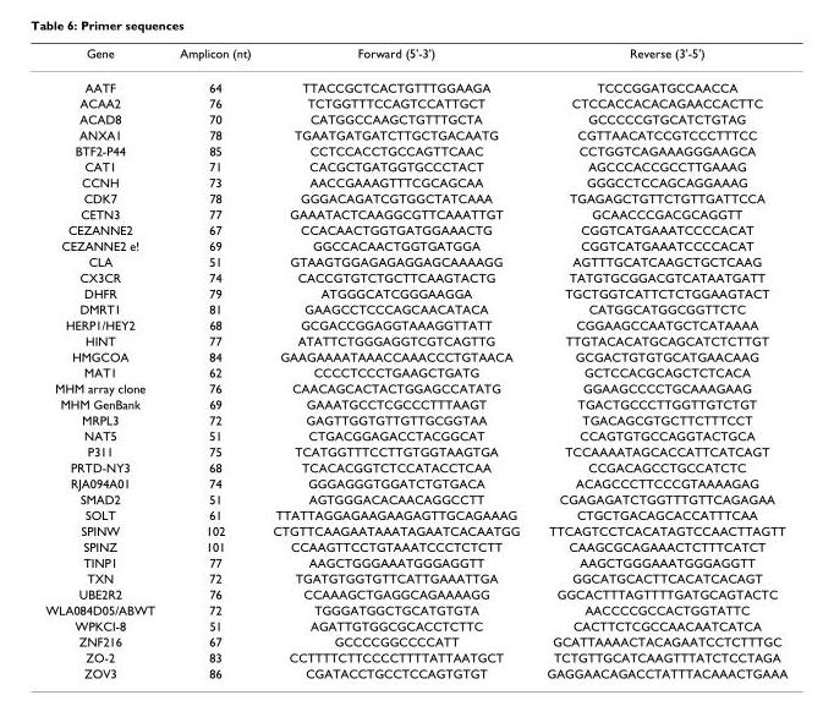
<table><thead><tr><td>Gene</td><td>Amplicon (nt)</td><td>Forward (5&#x27;-3&#x27;)</td><td>Reverse (3&#x27;-5&#x27;)</td></tr></thead><tbody><tr><td>AATF</td><td>64</td><td>TTACCGCTCACTGTTTGGAAGA</td><td>TCCCGGATGCCAACCA</td></tr><tr><td>ACAA2</td><td>76</td><td>TCTGGTTTCCAGTCCATTGCT</td><td>CTCCACCACACAGAACCACTTC</td></tr><tr><td>ACAD8</td><td>70</td><td>CATGGCCAAGCTGTTTGCTA</td><td>GCCCCCGTGCATCTGTAG</td></tr><tr><td>ANXA1</td><td>78</td><td>TGAATGATGATCTTGCTGACAATG</td><td>CGTTAACATCCGTCCCTTTCC</td></tr><tr><td>BTF2-P44</td><td>85</td><td>CCTCCACCTGCCAGTTCAAC</td><td>CCTGGTCAGAAAGGGAAGCA</td></tr><tr><td>CAT1</td><td>71</td><td>CACGCTGATGGTGCCCTACT</td><td>AGCCCACCGCCTTGAAAG</td></tr><tr><td>CCNH</td><td>73</td><td>AACCGAAAGTTTCGCAGCAA</td><td>GGGCCTCCAGCAGGAAAG</td></tr><tr><td>CDK7</td><td>78</td><td>GGGACAGATCGTGGCTATCAAA</td><td>TGAGAGCTGTTCTGTTGATTCCA</td></tr><tr><td>CETN3</td><td>77</td><td>GAAATACTCAAGGCGTTCAAATTGT</td><td>GCAACCCGACGCAGGTT</td></tr><tr><td>CEZANNE2</td><td>67</td><td>CCACAACTGGTGATGGAAACTG</td><td>CGGTCATGAAATCCCCACAT</td></tr><tr><td>CEZANNE2 e!</td><td>69</td><td>GGCCACAACTGGTGATGGA</td><td>CGGTCATGAAATCCCCACAT</td></tr><tr><td>CLA</td><td>51</td><td>GTAAGTGGAGAGAGGAGCAAAAGG</td><td>AGTTTGCATCAAGCTGCTCAAG</td></tr><tr><td>CX3CR</td><td>74</td><td>CACCGTGTCTGCTTCAAGTACTG</td><td>TATGTGCGGACGTCATAATGATT</td></tr><tr><td>DHFR</td><td>79</td><td>ATGGGCATCGGGAAGGA</td><td>TGCTGGTCATTCTCTGGAAGTACT</td></tr><tr><td>DMRT1</td><td>81</td><td>GAAGCCTCCCAGCAACATACA</td><td>CATGGCATGGCGGTTCTC</td></tr><tr><td>HERP1/HEY2</td><td>68</td><td>GCGACCGGAGGTAAAGGTTATT</td><td>CGGAAGCCAATGCTCATAAAA</td></tr><tr><td>HINT</td><td>77</td><td>ATATTCTGGGAGGTCGTCAGTTG</td><td>TTGTACACATGCAGCATCTCTTGT</td></tr><tr><td>HMGCOA</td><td>84</td><td>GAAGAAAATAAACCAAACCCTGTAACA</td><td>GCGACTGTGTGCATGAACAAG</td></tr><tr><td>MAT1</td><td>62</td><td>CCCCTCCCTGAAGCTGATG</td><td>GCTCCACGCAGCTCTCACA</td></tr><tr><td>MHM array clone</td><td>76</td><td>CAACAGCACTACTGGAGCCATATG</td><td>GGAAGCCCCTGCAAAGAAG</td></tr><tr><td>MHM GenBank</td><td>69</td><td>GAAATGCCTCGCCCTTTAAGT</td><td>TGACTGCCCTTGGTTGTCTGT</td></tr><tr><td>MRPL3</td><td>72</td><td>GAGTTGGTGTTGTTGCGGTAA</td><td>TGACAGCGTGCTTCTTTCCT</td></tr><tr><td>NAT5</td><td>51</td><td>CTGACGGAGACCTACGGCAT</td><td>CCAGTGTGCCAGGTACTGCA</td></tr><tr><td>P311</td><td>75</td><td>TCATGGTTTCCTTGTGGTAAGTGA</td><td>TCCAAAATAGCACCATTCATCAGT</td></tr><tr><td>PRTD-NY3</td><td>68</td><td>TCACACGGTCTCCATACCTCAA</td><td>CCGACAGCCTGCCATCTC</td></tr><tr><td>RJA094A01</td><td>74</td><td>GGGAGGGTGGATCTGTGACA</td><td>ACAGCCCTTCCCGTAAAAGAG</td></tr><tr><td>SMAD2</td><td>51</td><td>AGTGGGACACAACAGGCCTT</td><td>CGAGAGATCTGGTTTGTTCAGAGAA</td></tr><tr><td>SOLT</td><td>61</td><td>TTATTAGGAGAAGAAGAGTTGCAGAAAG</td><td>CTGCTGACAGCACCATTTCAA</td></tr><tr><td>SPINW</td><td>102</td><td>CTGTTCAAGAATAAATAGAATCACAATGG</td><td>TTCAGTCCTCACATAGTCCAACTTAGTT</td></tr><tr><td>SPINZ</td><td>101</td><td>CCAAGTTCCTGTAAATCCCTCTCTT</td><td>CAAGCGCAGAAACTCTTTCATCT</td></tr><tr><td>TINP1</td><td>77</td><td>AAGCTGGGAAATGGGAGGTT</td><td>AAGCTGGGAAATGGGAGGTT</td></tr><tr><td>TXN</td><td>72</td><td>TGATGTGGTGTTCATTGAAATTGA</td><td>GGCATGCACTTCACATCACAGT</td></tr><tr><td>UBE2R2</td><td>76</td><td>CCAAAGCTGAGGCAGAAAAGG</td><td>GGCACTTTAGTTTTGATGCAGTACTC</td></tr><tr><td>WLA084D05/ABWT</td><td>72</td><td>TGGGATGGCTGCATGTGTA</td><td>AACCCCGCCACTGGTATTC</td></tr><tr><td>WPKCI-8</td><td>51</td><td>AGATTGTGGCGCACCTCTTC</td><td>CACTTCTCGCCAACAATCATCA</td></tr><tr><td>ZNF216</td><td>67</td><td>GCCCCGGCCCCATT</td><td>GCATTAAAACTACAGAATCCTCTTTGC</td></tr><tr><td>ZO-2</td><td>83</td><td>CCTTTTCTTCCCCTTTTATTAATGCT</td><td>TCTGTTGCATCAAGTTTATCTCCTAGA</td></tr><tr><td>ZOV3</td><td>86</td><td>CGATACCTGCCTCCAGTGTGT</td><td>GAGGAACAGACCTATTTACAAACTGAAA</td></tr></tbody></table>